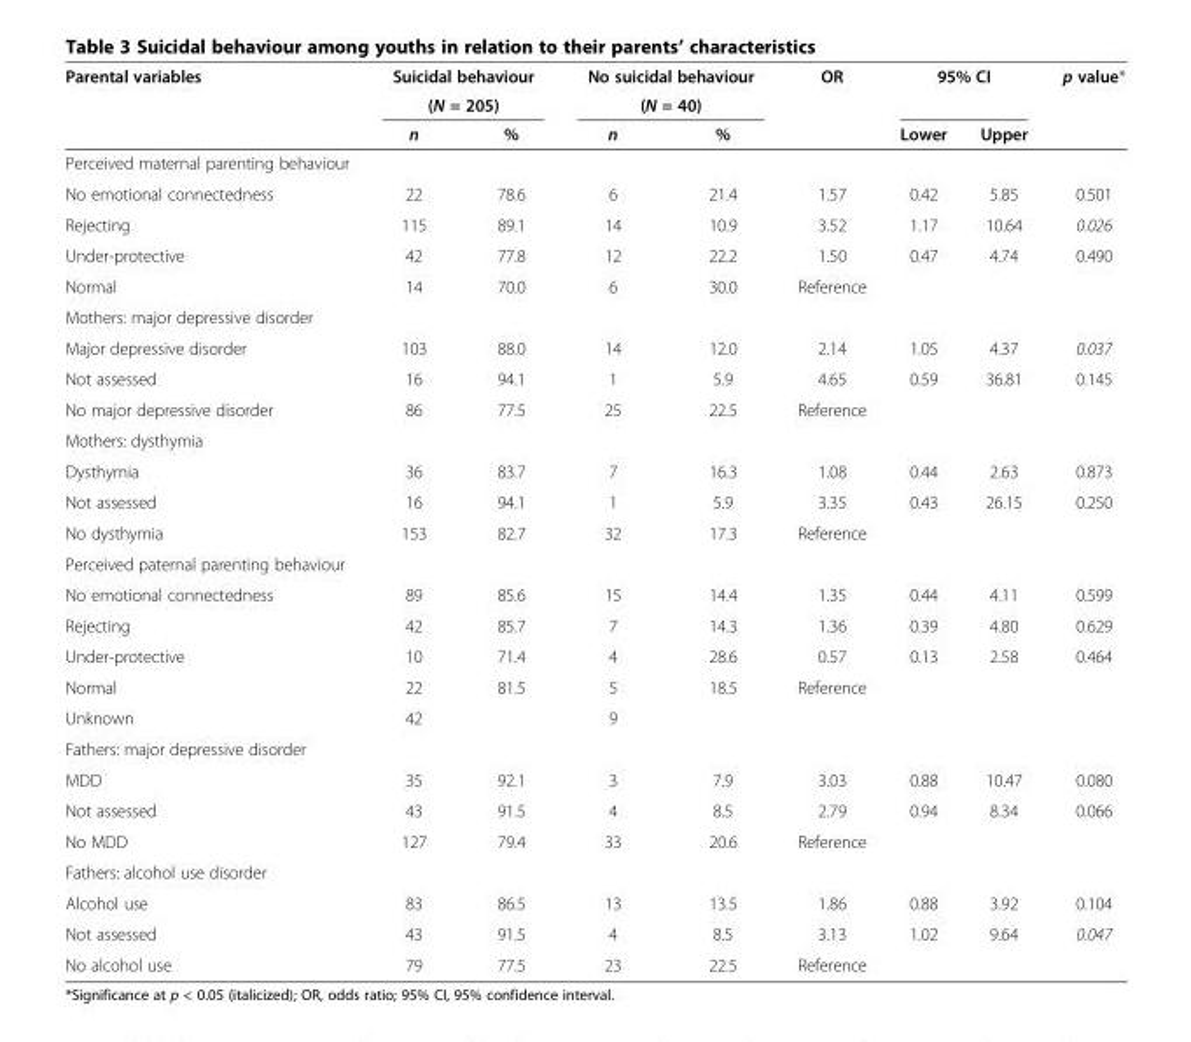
<table><thead><tr><td rowspan="3">Parental variables</td><td rowspan="2" colspan="2">Suicidal behaviour (N = 205)</td><td rowspan="2" colspan="2">No suicidal behaviour (N = 40)</td><td rowspan="3">OR</td><td colspan="2">95% CI</td><td rowspan="3">p value*</td></tr><tr><td rowspan="2">Lower</td><td rowspan="2">Upper</td></tr><tr><td>n</td><td>%</td><td>n</td><td>%</td></tr></thead><tbody><tr><td colspan="9">Perceived maternal parenting behaviour</td></tr><tr><td>No emotional connectedness</td><td>22</td><td>78.6</td><td>6</td><td>21.4</td><td>1.57</td><td>0.42</td><td>5.85</td><td>0.501</td></tr><tr><td>Rejecting</td><td>115</td><td>89.1</td><td>14</td><td>10.9</td><td>3.52</td><td>1.17</td><td>10.64</td><td>0.026</td></tr><tr><td>Under-protective</td><td>42</td><td>77.8</td><td>12</td><td>22.2</td><td>1.50</td><td>0.47</td><td>4.74</td><td>0.490</td></tr><tr><td>Normal</td><td>14</td><td>70.0</td><td>6</td><td>30.0</td><td>Reference</td><td></td><td></td><td></td></tr><tr><td colspan="9">Mothers: major depressive disorder</td></tr><tr><td>Major depressive disorder</td><td>103</td><td>88.0</td><td>14</td><td>12.0</td><td>2.14</td><td>1.05</td><td>4.37</td><td>0.037</td></tr><tr><td>Not assessed</td><td>16</td><td>94.1</td><td>1</td><td>5.9</td><td>4.65</td><td>0.59</td><td>36.81</td><td>0.145</td></tr><tr><td>No major depressive disorder</td><td>86</td><td>77.5</td><td>25</td><td>22.5</td><td>Reference</td><td></td><td></td><td></td></tr><tr><td colspan="9">Mothers: dysthymia</td></tr><tr><td>Dysthymia</td><td>36</td><td>83.7</td><td>7</td><td>16.3</td><td>1.08</td><td>0.44</td><td>2.63</td><td>0.873</td></tr><tr><td>Not assessed</td><td>16</td><td>94.1</td><td>1</td><td>5.9</td><td>3.35</td><td>0.43</td><td>26.15</td><td>0.250</td></tr><tr><td>No dysthymia</td><td>153</td><td>82.7</td><td>32</td><td>17.3</td><td>Reference</td><td></td><td></td><td></td></tr><tr><td colspan="9">Perceived paternal parenting behaviour</td></tr><tr><td>No emotional connectedness</td><td>89</td><td>85.6</td><td>15</td><td>14.4</td><td>1.35</td><td>0.44</td><td>4.11</td><td>0.599</td></tr><tr><td>Rejecting</td><td>42</td><td>85.7</td><td>7</td><td>14.3</td><td>1.36</td><td>0.39</td><td>4.80</td><td>0.629</td></tr><tr><td>Under-protective</td><td>10</td><td>71.4</td><td>4</td><td>28.6</td><td>0.57</td><td>0.13</td><td>2.58</td><td>0.464</td></tr><tr><td>Normal</td><td>22</td><td>81.5</td><td>5</td><td>18.5</td><td>Reference</td><td></td><td></td><td></td></tr><tr><td>Unknown</td><td>42</td><td></td><td>9</td><td></td><td></td><td></td><td></td><td></td></tr><tr><td colspan="9">Fathers: major depressive disorder</td></tr><tr><td>MDD</td><td>35</td><td>92.1</td><td>3</td><td>7.9</td><td>3.03</td><td>0.88</td><td>10.47</td><td>0.080</td></tr><tr><td>Not assessed</td><td>43</td><td>91.5</td><td>4</td><td>8.5</td><td>2.79</td><td>0.94</td><td>8.34</td><td>0.066</td></tr><tr><td>No MDD</td><td>127</td><td>79.4</td><td>33</td><td>20.6</td><td>Reference</td><td></td><td></td><td></td></tr><tr><td colspan="9">Fathers: alcohol use disorder</td></tr><tr><td>Alcohol use</td><td>83</td><td>86.5</td><td>13</td><td>13.5</td><td>1.86</td><td>0.88</td><td>3.92</td><td>0.104</td></tr><tr><td>Not assessed</td><td>43</td><td>91.5</td><td>4</td><td>8.5</td><td>3.13</td><td>1.02</td><td>9.64</td><td>0.047</td></tr><tr><td>No alcohol use</td><td>79</td><td>77.5</td><td>23</td><td>22.5</td><td>Reference</td><td></td><td></td><td></td></tr></tbody></table>